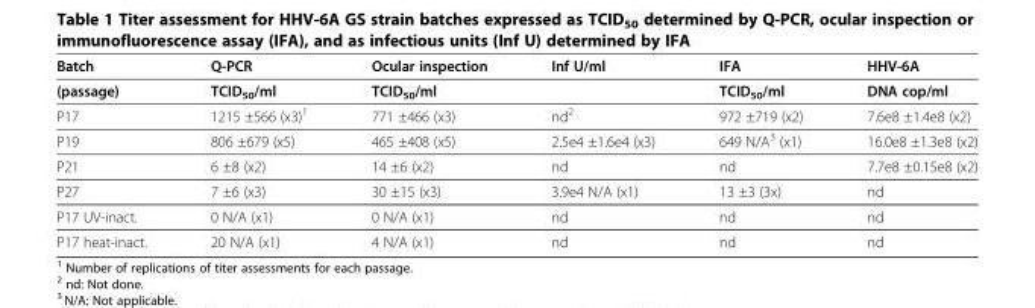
<table><thead><tr><td>Batch</td><td>Q-PCR</td><td>Ocular inspection</td><td>Inf U/ml</td><td>IFA</td><td>HHV-6A</td></tr></thead><tbody><tr><td>(passage)</td><td>TCID<sub>50</sub>/ml</td><td>TCID<sub>50</sub>/ml</td><td></td><td>TCID<sub>50</sub>/ml</td><td>DNA cop/ml</td></tr><tr><td>P17</td><td>1215 ±566 (x3)<sup>1</sup></td><td>771 ±466 (x3)</td><td>nd<sup>2</sup></td><td>972 ±719 (x2)</td><td>7.6e8 ±1.4e8 (x2)</td></tr><tr><td>P19</td><td>806 ±679 (x5)</td><td>465 ±408 (x5)</td><td>2.5e4 ±1.6e4 (x3)</td><td>649 N/A<sup>3</sup> (x1)</td><td>16.0e8 ±1.3e8 (x2)</td></tr><tr><td>P21</td><td>6 ±8 (x2)</td><td>14 ±6 (x2)</td><td>nd</td><td>nd</td><td>7.7e8 ±0.15e8 (x2)</td></tr><tr><td>P27</td><td>7 ±6 (x3)</td><td>30 ±15 (x3)</td><td>3.9e4 N/A (x1)</td><td>13 ±3 (3x)</td><td>nd</td></tr><tr><td>P17 UV-inact.</td><td>0 N/A (x1)</td><td>0 N/A (x1)</td><td>nd</td><td>nd</td><td>nd</td></tr><tr><td>P17 heat-inact.</td><td>20 N/A (x1)</td><td>4 N/A (x1)</td><td>nd</td><td>nd</td><td>nd</td></tr></tbody></table>